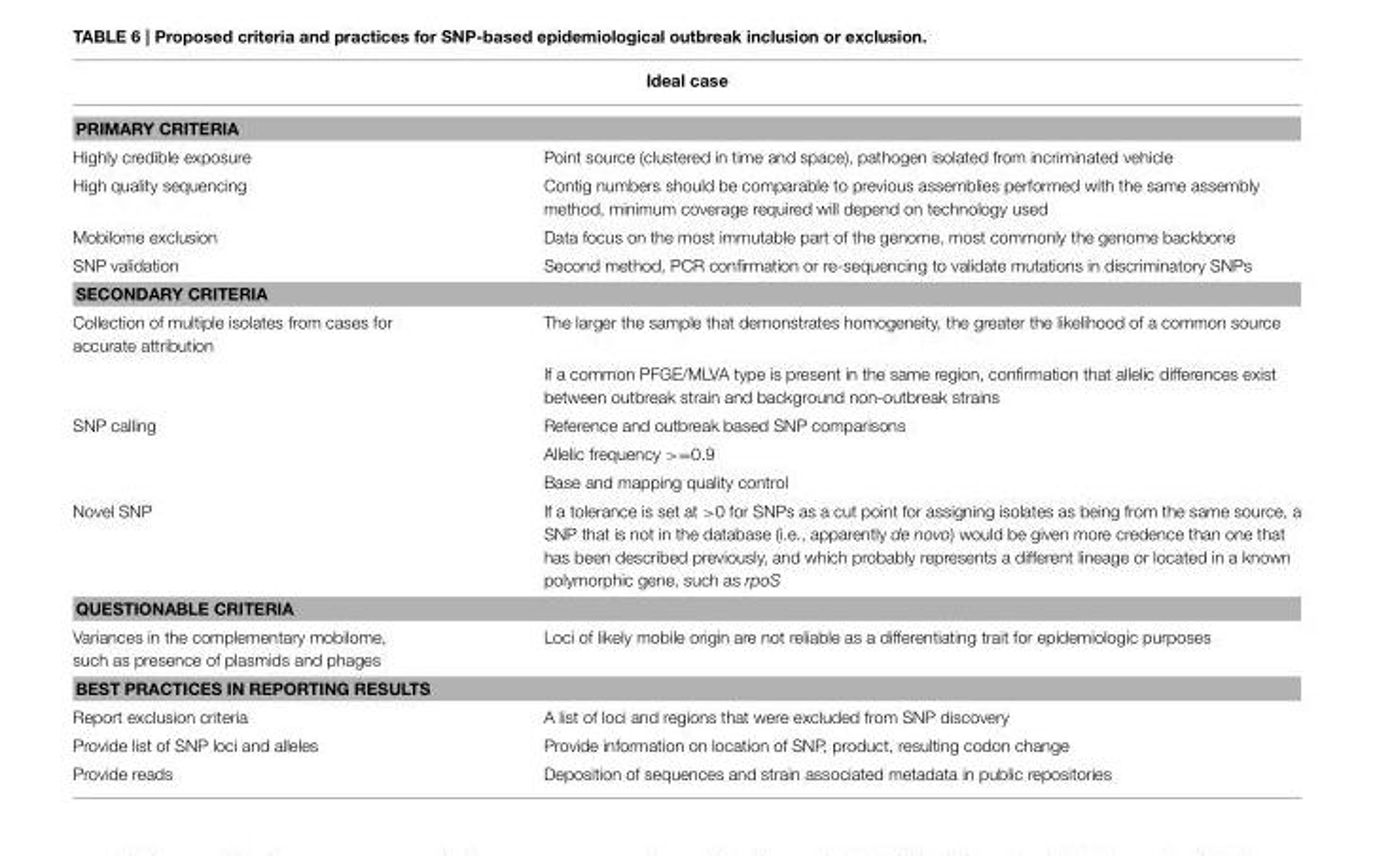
<table><thead><tr><td rowspan="2" colspan="2">Ideal case PRIMARY CRITERIA</td></tr><tr></tr><tr><td>Highly credible exposure</td><td>Point source (clustered in time and space), pathogen isolated from incriminated vehicle</td></tr></thead><tbody><tr><td>High quality sequencing</td><td>Contig numbers should be comparable to previous assemblies performed with the same assembly method, minimum coverage required will depend on technology used</td></tr><tr><td>Mobilome exclusion</td><td>Data focus on the most immutable part of the genome, most commonly the genome backbone</td></tr><tr><td>SNP validation</td><td>Second method, PCR confirmation or re-sequencing to validate mutations in discriminatory SNPs</td></tr><tr><td colspan="2">SECONDARY CRITERIA</td></tr><tr><td rowspan="2">Collection of multiple isolates from cases for accurate attribution</td><td>The larger the sample that demonstrates homogeneity, the greater the likelihood of a common source</td></tr><tr><td>If a common PFGE/MLVA type is present in the same region, confirmation that allelic differences exist between outbreak strain and background non-outbreak strains</td></tr><tr><td rowspan="3">SNP calling</td><td>Reference and outbreak based SNP comparisons</td></tr><tr><td>Allelic frequency &gt;=0.9</td></tr><tr><td>Base and mapping quality control</td></tr><tr><td>Novel SNP</td><td>If a tolerance is set at &gt;0 for SNPs as a cut point for assigning isolates as being from the same source, a SNP that is not in the database (i.e., apparently de novo) would be given more credence than one that has been described previously, and which probably represents a different lineage or located in a known polymorphic gene, such as rpoS</td></tr><tr><td colspan="2">QUESTIONABLE CRITERIA</td></tr><tr><td>Variances in the complementary mobilome, such as presence of plasmids and phages</td><td>Loci of likely mobile origin are not reliable as a differentiating trait for epidemiologic purposes</td></tr><tr><td colspan="2">BEST PRACTICES IN REPORTING RESULTS</td></tr><tr><td>Report exclusion criteria</td><td>A list of loci and regions that were excluded from SNP discovery</td></tr><tr><td>Provide list of SNP loci and alleles</td><td>Provide information on location of SNP, product, resulting codon change</td></tr><tr><td>Provide reads</td><td>Deposition of sequences and strain associated metadata in public repositories</td></tr></tbody></table>